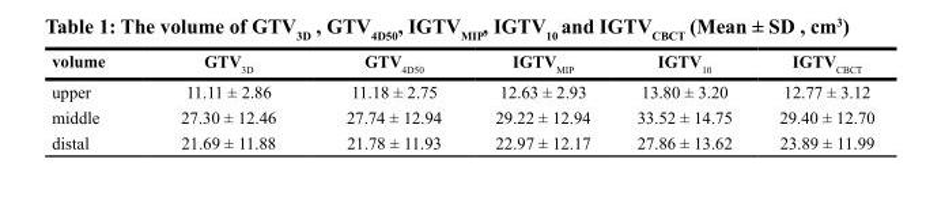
<table><thead><tr><td>volume</td><td>GTV<sub>3D</sub></td><td>GTV<sub>4D50</sub></td><td>IGTV<sub>MIP</sub></td><td>IGTV<sub>10</sub></td><td>IGTV<sub>CBCT</sub></td></tr></thead><tbody><tr><td>upper</td><td>11.11 ± 2.86</td><td>11.18 ± 2.75</td><td>12.63 ± 2.93</td><td>13.80 ± 3.20</td><td>12.77 ± 3.12</td></tr><tr><td>middle</td><td>27.30 ± 12.46</td><td>27.74 ± 12.94</td><td>29.22 ± 12.94</td><td>33.52 ± 14.75</td><td>29.40 ± 12.70</td></tr><tr><td>distal</td><td>21.69 ± 11.88</td><td>21.78 ± 11.93</td><td>22.97 ± 12.17</td><td>27.86 ± 13.62</td><td>23.89 ± 11.99</td></tr></tbody></table>